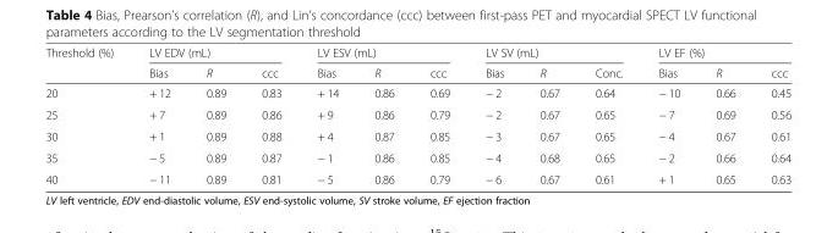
<table><thead><tr><td rowspan="2">Threshold (%)</td><td colspan="3">LV EDV (mL)</td><td colspan="3">LV ESV (mL)</td><td colspan="3">LV SV (mL)</td><td colspan="3">LV EF (%)</td></tr><tr><td>Bias</td><td>R</td><td>ccc</td><td>Bias</td><td>R</td><td>ccc</td><td>Bias</td><td>R</td><td>Conc.</td><td>Bias</td><td>R</td><td>ccc</td></tr></thead><tbody><tr><td>20</td><td>+ 12</td><td>0.89</td><td>0.83</td><td>+ 14</td><td>0.86</td><td>0.69</td><td>− 2</td><td>0.67</td><td>0.64</td><td>− 10</td><td>0.66</td><td>0.45</td></tr><tr><td>25</td><td>+ 7</td><td>0.89</td><td>0.86</td><td>+ 9</td><td>0.86</td><td>0.79</td><td>− 2</td><td>0.67</td><td>0.65</td><td>− 7</td><td>0.69</td><td>0.56</td></tr><tr><td>30</td><td>+ 1</td><td>0.89</td><td>0.88</td><td>+ 4</td><td>0.87</td><td>0.85</td><td>− 3</td><td>0.67</td><td>0.65</td><td>− 4</td><td>0.67</td><td>0.61</td></tr><tr><td>35</td><td>− 5</td><td>0.89</td><td>0.87</td><td>− 1</td><td>0.86</td><td>0.85</td><td>− 4</td><td>0.68</td><td>0.65</td><td>− 2</td><td>0.66</td><td>0.64</td></tr><tr><td>40</td><td>− 11</td><td>0.89</td><td>0.81</td><td>− 5</td><td>0.86</td><td>0.79</td><td>− 6</td><td>0.67</td><td>0.61</td><td>+ 1</td><td>0.65</td><td>0.63</td></tr></tbody></table>